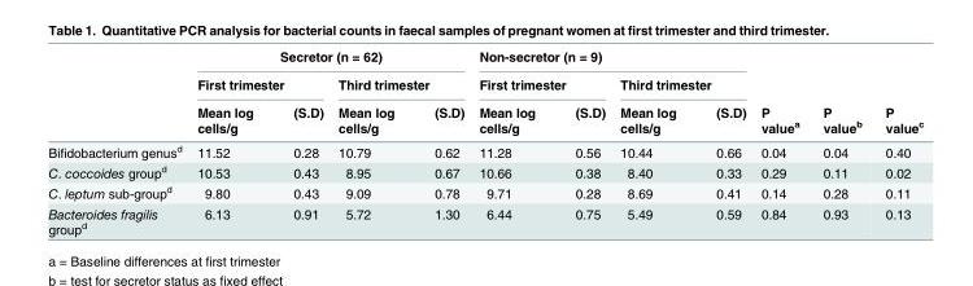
<table><thead><tr><td rowspan="3"></td><td colspan="4">Secretor (n = 62)</td><td colspan="4">Non-secretor (n = 9)</td><td rowspan="3">P value<sup>a</sup></td><td rowspan="3">P value<sup>b</sup></td><td rowspan="3">P value<sup>c</sup></td></tr><tr><td colspan="2">First trimester</td><td colspan="2">Third trimester</td><td colspan="2">First trimester</td><td colspan="2">Third trimester</td></tr><tr><td>Mean log cells/g</td><td>(S.D)</td><td>Mean log cells/g</td><td>(S.D)</td><td>Mean log cells/g</td><td>(S.D)</td><td>Mean log cells/g</td><td>(S.D)</td></tr></thead><tbody><tr><td>Bifidobacterium genus<sup>d</sup></td><td>11.52</td><td>0.28</td><td>10.79</td><td>0.62</td><td>11.28</td><td>0.56</td><td>10.44</td><td>0.66</td><td>0.04</td><td>0.04</td><td>0.40</td></tr><tr><td>C. coccoides group<sup>d</sup></td><td>10.53</td><td>0.43</td><td>8.95</td><td>0.67</td><td>10.66</td><td>0.38</td><td>8.40</td><td>0.33</td><td>0.29</td><td>0.11</td><td>0.02</td></tr><tr><td>C. leptum sub-group<sup>d</sup></td><td>9.80</td><td>0.43</td><td>9.09</td><td>0.78</td><td>9.71</td><td>0.28</td><td>8.69</td><td>0.41</td><td>0.14</td><td>0.28</td><td>0.11</td></tr><tr><td>Bacteroides fragilis group<sup>d</sup></td><td>6.13</td><td>0.91</td><td>5.72</td><td>1.30</td><td>6.44</td><td>0.75</td><td>5.49</td><td>0.59</td><td>0.84</td><td>0.93</td><td>0.13</td></tr></tbody></table>